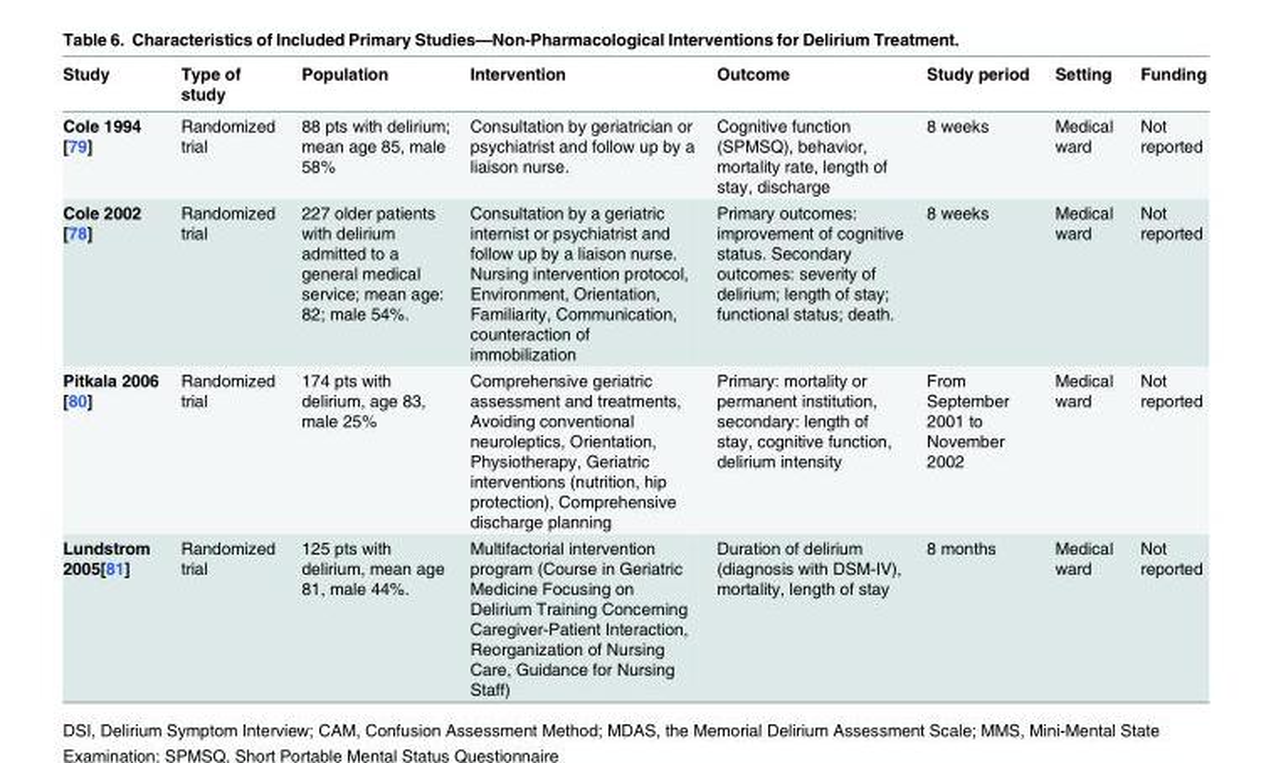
<table><thead><tr><td>Study</td><td>Type of study</td><td>Population</td><td>Intervention</td><td>Outcome</td><td>Study period</td><td>Setting</td><td>Funding</td></tr></thead><tbody><tr><td>Cole 1994 [79]</td><td>Randomized trial</td><td>88 pts with delirium; mean age 85, male 58%</td><td>Consultation by geriatrician or psychiatrist and follow up by a liaison nurse.</td><td>Cognitive function (SPMSQ), behavior, mortality rate, length of stay, discharge</td><td>8 weeks</td><td>Medical ward</td><td>Not reported</td></tr><tr><td>Cole 2002 [78]</td><td>Randomized trial</td><td>227 older patients with delirium admitted to a general medical service; mean age: 82; male 54%.</td><td>Consultation by a geriatric internist or psychiatrist and follow up by a liaison nurse. Nursing intervention protocol, Environment, Orientation, Familiarity, Communication, counteraction of immobilization</td><td>Primary outcomes: improvement of cognitive status. Secondary outcomes: severity of delirium; length of stay; functional status; death.</td><td>8 weeks</td><td>Medical ward</td><td>Not reported</td></tr><tr><td>Pitkala 2006 [80]</td><td>Randomized trial</td><td>174 pts with delirium, age 83, male 25%</td><td>Comprehensive geriatric assessment and treatments, Avoiding conventional neuroleptics, Orientation, Physiotherapy, Geriatric interventions (nutrition, hip protection), Comprehensive discharge planning</td><td>Primary: mortality or permanent institution, secondary: length of stay, cognitive function, delirium intensity</td><td>From September 2001 to November 2002</td><td>Medical ward</td><td>Not reported</td></tr><tr><td>Lundstrom 2005[81]</td><td>Randomized trial</td><td>125 pts with delirium, mean age 81, male 44%.</td><td>Multifactorial intervention program (Course in Geriatric Medicine Focusing on Delirium Training Concerning Caregiver-Patient Interaction, Reorganization of Nursing Care, Guidance for Nursing Staff)</td><td>Duration of delirium (diagnosis with DSM-IV), mortality, length of stay</td><td>8 months</td><td>Medical ward</td><td>Not reported</td></tr></tbody></table>